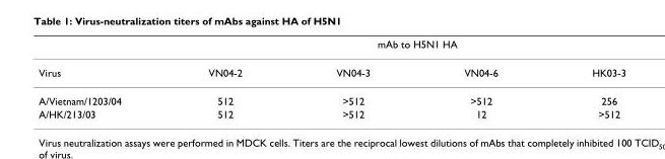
<table><thead><tr><td rowspan="2">Virus</td><td colspan="4">mAb to H5N1 HA</td></tr><tr><td>VN04-2</td><td>VN04-3</td><td>VN04-6</td><td>HK03-3</td></tr></thead><tbody><tr><td>A/Vietnam/1203/04</td><td>512</td><td>&gt;512</td><td>&gt;512</td><td>256</td></tr><tr><td>A/HK/213/03</td><td>512</td><td>&gt;512</td><td>12</td><td>&gt;512</td></tr></tbody></table>